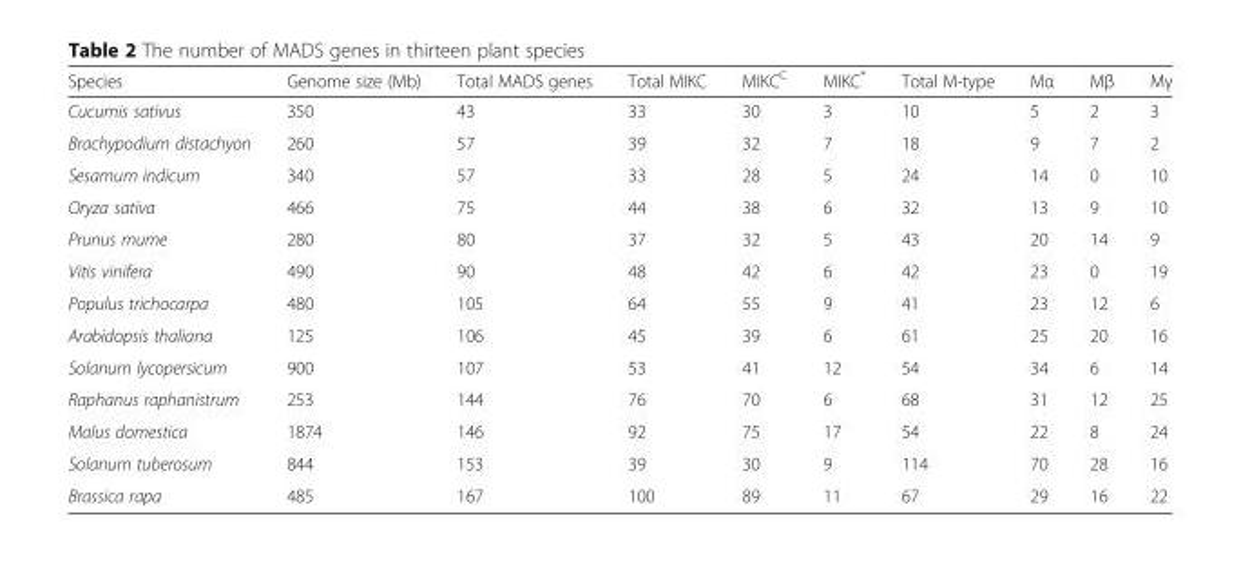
<table><thead><tr><td>Species</td><td>Genome size (Mb)</td><td>Total MADS genes</td><td>Total MIKC</td><td>MIKC<sup>C</sup></td><td>MIKC*</td><td>Total M-type</td><td>Mα</td><td>Mβ</td><td>Mγ</td></tr></thead><tbody><tr><td>Cucumis sativus</td><td>350</td><td>43</td><td>33</td><td>30</td><td>3</td><td>10</td><td>5</td><td>2</td><td>3</td></tr><tr><td>Brachypodium distachyon</td><td>260</td><td>57</td><td>39</td><td>32</td><td>7</td><td>18</td><td>9</td><td>7</td><td>2</td></tr><tr><td>Sesamum indicum</td><td>340</td><td>57</td><td>33</td><td>28</td><td>5</td><td>24</td><td>14</td><td>0</td><td>10</td></tr><tr><td>Oryza sativa</td><td>466</td><td>75</td><td>44</td><td>38</td><td>6</td><td>32</td><td>13</td><td>9</td><td>10</td></tr><tr><td>Prunus mume</td><td>280</td><td>80</td><td>37</td><td>32</td><td>5</td><td>43</td><td>20</td><td>14</td><td>9</td></tr><tr><td>Vitis vinifera</td><td>490</td><td>90</td><td>48</td><td>42</td><td>6</td><td>42</td><td>23</td><td>0</td><td>19</td></tr><tr><td>Populus trichocarpa</td><td>480</td><td>105</td><td>64</td><td>55</td><td>9</td><td>41</td><td>23</td><td>12</td><td>6</td></tr><tr><td>Arabidopsis thaliana</td><td>125</td><td>106</td><td>45</td><td>39</td><td>6</td><td>61</td><td>25</td><td>20</td><td>16</td></tr><tr><td>Solanum lycopersicum</td><td>900</td><td>107</td><td>53</td><td>41</td><td>12</td><td>54</td><td>34</td><td>6</td><td>14</td></tr><tr><td>Raphanus raphanistrum</td><td>253</td><td>144</td><td>76</td><td>70</td><td>6</td><td>68</td><td>31</td><td>12</td><td>25</td></tr><tr><td>Malus domestica</td><td>1874</td><td>146</td><td>92</td><td>75</td><td>17</td><td>54</td><td>22</td><td>8</td><td>24</td></tr><tr><td>Solanum tuberosum</td><td>844</td><td>153</td><td>39</td><td>30</td><td>9</td><td>114</td><td>70</td><td>28</td><td>16</td></tr><tr><td>Brassica rapa</td><td>485</td><td>167</td><td>100</td><td>89</td><td>11</td><td>67</td><td>29</td><td>16</td><td>22</td></tr></tbody></table>